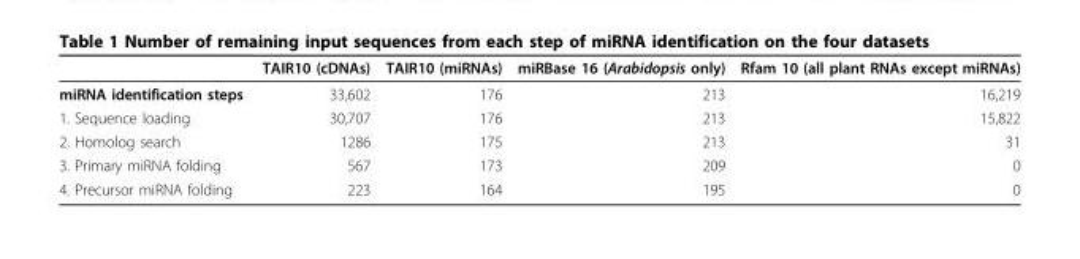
<table><thead><tr><td></td><td>TAIR10 (cDNAs)</td><td>TAIR10 (miRNAs)</td><td>miRBase 16 (Arabidopsis only)</td><td>Rfam 10 (all plant RNAs except miRNAs)</td></tr></thead><tbody><tr><td>miRNA identification steps</td><td>33,602</td><td>176</td><td>213</td><td>16,219</td></tr><tr><td>1. Sequence loading</td><td>30,707</td><td>176</td><td>213</td><td>15,822</td></tr><tr><td>2. Homolog search</td><td>1286</td><td>175</td><td>213</td><td>31</td></tr><tr><td>3. Primary miRNA folding</td><td>567</td><td>173</td><td>209</td><td>0</td></tr><tr><td>4. Precursor miRNA folding</td><td>223</td><td>164</td><td>195</td><td>0</td></tr></tbody></table>